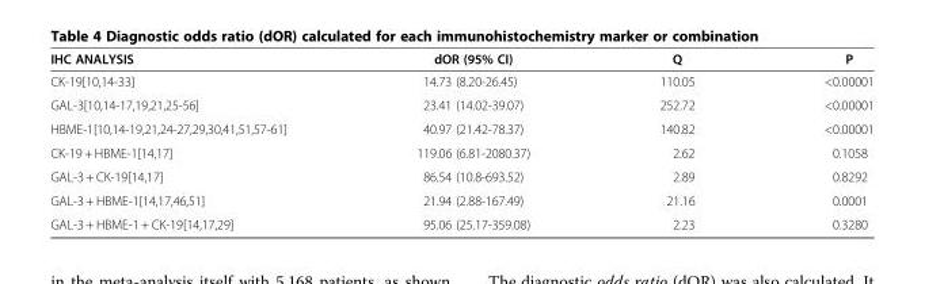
<table><thead><tr><td>IHC ANALYSIS</td><td>dOR (95% CI)</td><td>Q</td><td>P</td></tr></thead><tbody><tr><td>CK-19[10,14-33]</td><td>14.73 (8.20-26.45)</td><td>110.05</td><td>&lt;0.00001</td></tr><tr><td>GAL-3[10,14-17,19,21,25-56]</td><td>23.41 (14.02-39.07)</td><td>252.72</td><td>&lt;0.00001</td></tr><tr><td>HBME-1[10,14-19,21,24-27,29,30,41,51,57-61]</td><td>40.97 (21.42-78.37)</td><td>140.82</td><td>&lt;0.00001</td></tr><tr><td>CK-19 + HBME-1[14,17]</td><td>119.06 (6.81-2080.37)</td><td>2.62</td><td>0.1058</td></tr><tr><td>GAL-3 + CK-19[14,17]</td><td>86.54 (10.8-693.52)</td><td>2.89</td><td>0.8292</td></tr><tr><td>GAL-3 + HBME-1[14,17,46,51]</td><td>21.94 (2.88-167.49)</td><td>21.16</td><td>0.0001</td></tr><tr><td>GAL-3 + HBME-1 + CK-19[14,17,29]</td><td>95.06 (25.17-359.08)</td><td>2.23</td><td>0.3280</td></tr></tbody></table>